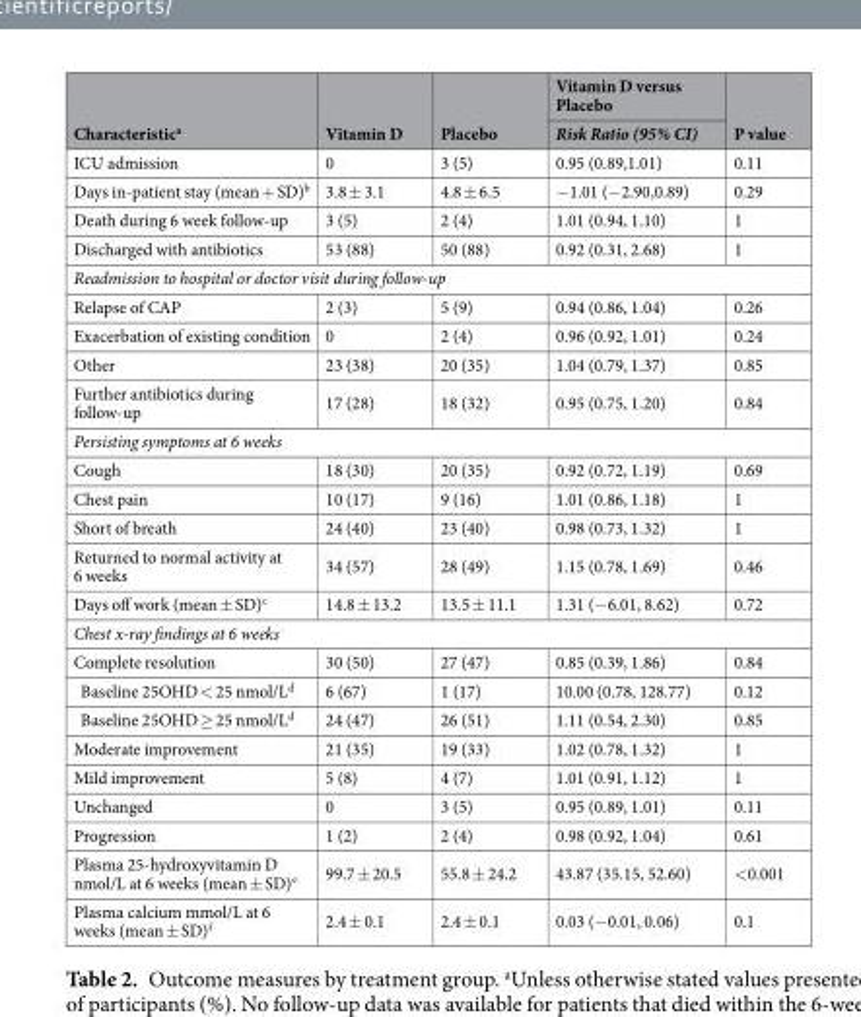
<table><thead><tr><td rowspan="2">Characteristic<sup>a</sup></td><td rowspan="2">Vitamin D</td><td rowspan="2">Placebo</td><td rowspan="2">Vitamin D versus Placebo Risk Ratio (95% CI)</td><td rowspan="2">P value</td></tr><tr></tr></thead><tbody><tr><td>ICU admission</td><td>0</td><td>3 (5)</td><td>0.95 (0.89,1.01)</td><td>0.11</td></tr><tr><td>Days in-patient stay (mean + SD)<sup>b</sup></td><td>3.8 ± 3.1</td><td>4.8 ± 6.5</td><td>−1.01 (−2.90,0.89)</td><td>0.29</td></tr><tr><td>Death during 6 week follow-up</td><td>3 (5)</td><td>2 (4)</td><td>1.01 (0.94, 1.10)</td><td>1</td></tr><tr><td>Discharged with antibiotics</td><td>53 (88)</td><td>50 (88)</td><td>0.92 (0.31, 2.68)</td><td>1</td></tr><tr><td colspan="5">Readmission to hospital or doctor visit during follow-up</td></tr><tr><td>Relapse of CAP</td><td>2 (3)</td><td>5 (9)</td><td>0.94 (0.86, 1.04)</td><td>0.26</td></tr><tr><td>Exacerbation of existing condition</td><td>0</td><td>2 (4)</td><td>0.96 (0.92, 1.01)</td><td>0.24</td></tr><tr><td>Other</td><td>23 (38)</td><td>20 (35)</td><td>1.04 (0.79, 1.37)</td><td>0.85</td></tr><tr><td>Further antibiotics during follow-up</td><td>17 (28)</td><td>18 (32)</td><td>0.95 (0.75, 1.20)</td><td>0.84</td></tr><tr><td colspan="5">Persisting symptoms at 6 weeks</td></tr><tr><td>Cough</td><td>18 (30)</td><td>20 (35)</td><td>0.92 (0.72, 1.19)</td><td>0.69</td></tr><tr><td>Chest pain</td><td>10 (17)</td><td>9 (16)</td><td>1.01 (0.86, 1.18)</td><td>1</td></tr><tr><td>Short of breath</td><td>24 (40)</td><td>23 (40)</td><td>0.98 (0.73, 1.32)</td><td>1</td></tr><tr><td>Returned to normal activity at 6 weeks</td><td>34 (57)</td><td>28 (49)</td><td>1.15 (0.78, 1.69)</td><td>0.46</td></tr><tr><td>Days off work (mean ± SD)<sup>c</sup></td><td>14.8 ± 13.2</td><td>13.5 ± 11.1</td><td>1.31 (−6.01, 8.62)</td><td>0.72</td></tr><tr><td colspan="5">Chest x-ray findings at 6 weeks</td></tr><tr><td>Complete resolution</td><td>30 (50)</td><td>27 (47)</td><td>0.85 (0.39, 1.86)</td><td>0.84</td></tr><tr><td>Baseline 25OHD &lt; 25 nmol/L<sup>d</sup></td><td>6 (67)</td><td>1 (17)</td><td>10.00 (0.78, 128.77)</td><td>0.12</td></tr><tr><td>Baseline 25OHD ≥ 25 nmol/L<sup>d</sup></td><td>24 (47)</td><td>26 (51)</td><td>1.11 (0.54, 2.30)</td><td>0.85</td></tr><tr><td>Moderate improvement</td><td>21 (35)</td><td>19 (33)</td><td>1.02 (0.78, 1.32)</td><td>1</td></tr><tr><td>Mild improvement</td><td>5 (8)</td><td>4 (7)</td><td>1.01 (0.91, 1.12)</td><td>1</td></tr><tr><td>Unchanged</td><td>0</td><td>3 (5)</td><td>0.95 (0.89, 1.01)</td><td>0.11</td></tr><tr><td>Progression</td><td>1 (2)</td><td>2 (4)</td><td>0.98 (0.92, 1.04)</td><td>0.61</td></tr><tr><td>Plasma 25-hydroxyvitamin D nmol/L at 6 weeks (mean ± SD)<sup>e</sup></td><td>99.7 ± 20.5</td><td>55.8 ± 24.2</td><td>43.87 (35.15, 52.60)</td><td>&lt;0.001</td></tr><tr><td>Plasma calcium mmol/L at 6 weeks (mean ± SD)<sup>f</sup></td><td>2.4 ± 0.1</td><td>2.4 ± 0.1</td><td>0.03 (−0.01, 0.06)</td><td>0.1</td></tr></tbody></table>